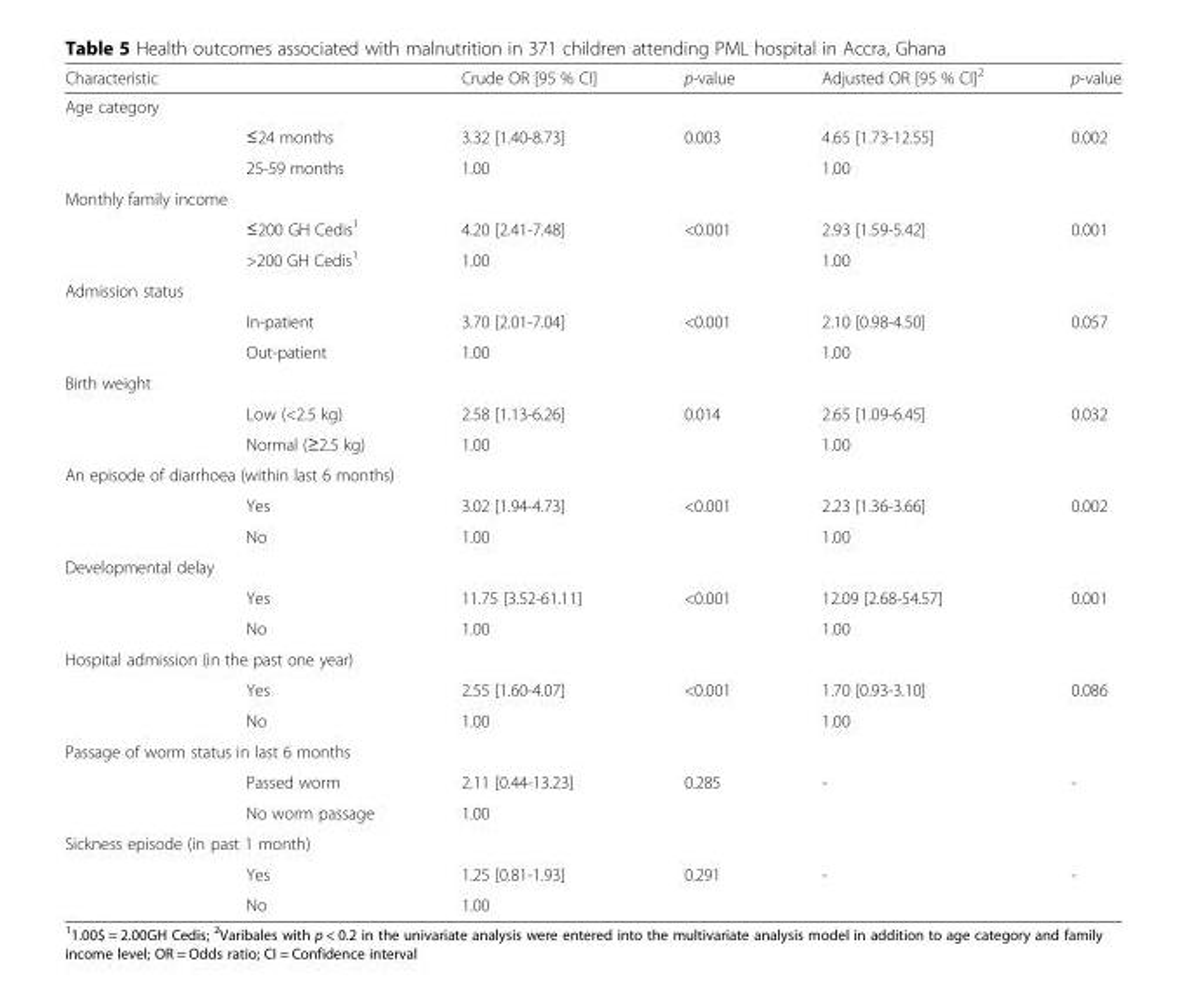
<table><thead><tr><td>Characteristic</td><td></td><td>Crude OR [95 % CI]</td><td>p-value</td><td>Adjusted OR [95 % CI]<sup>2</sup></td><td>p-value</td></tr></thead><tbody><tr><td colspan="6">Age category</td></tr><tr><td></td><td>≤24 months</td><td>3.32 [1.40-8.73]</td><td>0.003</td><td>4.65 [1.73-12.55]</td><td>0.002</td></tr><tr><td></td><td>25-59 months</td><td>1.00</td><td></td><td>1.00</td><td></td></tr><tr><td colspan="6">Monthly family income</td></tr><tr><td></td><td>≤200 GH Cedis<sup>1</sup></td><td>4.20 [2.41-7.48]</td><td>&lt;0.001</td><td>2.93 [1.59-5.42]</td><td>0.001</td></tr><tr><td></td><td>&gt;200 GH Cedis<sup>1</sup></td><td>1.00</td><td></td><td>1.00</td><td></td></tr><tr><td colspan="6">Admission status</td></tr><tr><td></td><td>In-patient</td><td>3.70 [2.01-7.04]</td><td>&lt;0.001</td><td>2.10 [0.98-4.50]</td><td>0.057</td></tr><tr><td></td><td>Out-patient</td><td>1.00</td><td></td><td>1.00</td><td></td></tr><tr><td colspan="6">Birth weight</td></tr><tr><td></td><td>Low (&lt;2.5 kg)</td><td>2.58 [1.13-6.26]</td><td>0.014</td><td>2.65 [1.09-6.45]</td><td>0.032</td></tr><tr><td></td><td>Normal (≥2.5 kg)</td><td>1.00</td><td></td><td>1.00</td><td></td></tr><tr><td colspan="6">An episode of diarrhoea (within last 6 months)</td></tr><tr><td></td><td>Yes</td><td>3.02 [1.94-4.73]</td><td>&lt;0.001</td><td>2.23 [1.36-3.66]</td><td>0.002</td></tr><tr><td></td><td>No</td><td>1.00</td><td></td><td>1.00</td><td></td></tr><tr><td colspan="6">Developmental delay</td></tr><tr><td></td><td>Yes</td><td>11.75 [3.52-61.11]</td><td>&lt;0.001</td><td>12.09 [2.68-54.57]</td><td>0.001</td></tr><tr><td></td><td>No</td><td>1.00</td><td></td><td>1.00</td><td></td></tr><tr><td colspan="6">Hospital admission (in the past one year)</td></tr><tr><td></td><td>Yes</td><td>2.55 [1.60-4.07]</td><td>&lt;0.001</td><td>1.70 [0.93-3.10]</td><td>0.086</td></tr><tr><td></td><td>No</td><td>1.00</td><td></td><td>1.00</td><td></td></tr><tr><td colspan="6">Passage of worm status in last 6 months</td></tr><tr><td></td><td>Passed worm</td><td>2.11 [0.44-13.23]</td><td>0.285</td><td>-</td><td>-</td></tr><tr><td></td><td>No worm passage</td><td>1.00</td><td></td><td></td><td></td></tr><tr><td colspan="6">Sickness episode (in past 1 month)</td></tr><tr><td></td><td>Yes</td><td>1.25 [0.81-1.93]</td><td>0.291</td><td>-</td><td>-</td></tr><tr><td></td><td>No</td><td>1.00</td><td></td><td></td><td></td></tr></tbody></table>